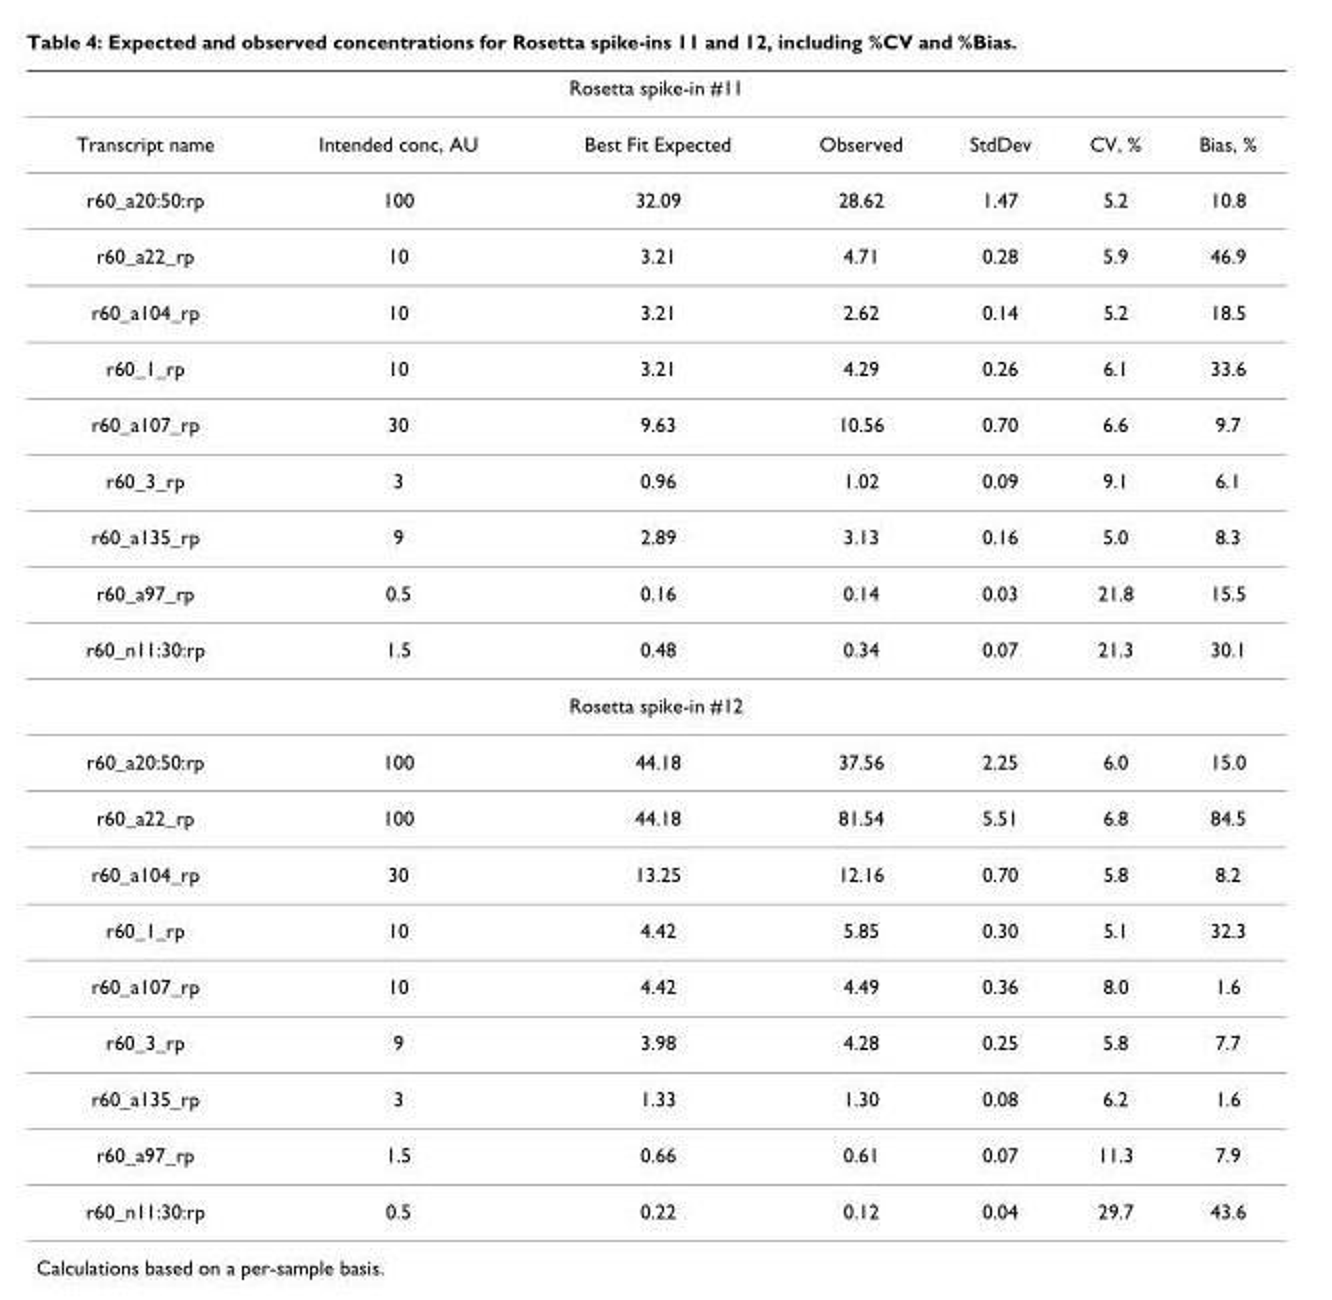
<table><thead><tr><td colspan="7">Rosetta spike-in #11</td></tr><tr><td>Transcript name</td><td>Intended conc, AU</td><td>Best Fit Expected</td><td>Observed</td><td>StdDev</td><td>CV, %</td><td>Bias, %</td></tr></thead><tbody><tr><td>r60_a20:50:rp</td><td>100</td><td>32.09</td><td>28.62</td><td>1.47</td><td>5.2</td><td>10.8</td></tr><tr><td>r60_a22_rp</td><td>10</td><td>3.21</td><td>4.71</td><td>0.28</td><td>5.9</td><td>46.9</td></tr><tr><td>r60_a104_rp</td><td>10</td><td>3.21</td><td>2.62</td><td>0.14</td><td>5.2</td><td>18.5</td></tr><tr><td>r60_1_rp</td><td>10</td><td>3.21</td><td>4.29</td><td>0.26</td><td>6.1</td><td>33.6</td></tr><tr><td>r60_a107_rp</td><td>30</td><td>9.63</td><td>10.56</td><td>0.70</td><td>6.6</td><td>9.7</td></tr><tr><td>r60_3_rp</td><td>3</td><td>0.96</td><td>1.02</td><td>0.09</td><td>9.1</td><td>6.1</td></tr><tr><td>r60_a135_rp</td><td>9</td><td>2.89</td><td>3.13</td><td>0.16</td><td>5.0</td><td>8.3</td></tr><tr><td>r60_a97_rp</td><td>0.5</td><td>0.16</td><td>0.14</td><td>0.03</td><td>21.8</td><td>15.5</td></tr><tr><td>r60_n11:30:rp</td><td>1.5</td><td>0.48</td><td>0.34</td><td>0.07</td><td>21.3</td><td>30.1</td></tr><tr><td colspan="7">Rosetta spike-in #12</td></tr><tr><td>r60_a20:50:rp</td><td>100</td><td>44.18</td><td>37.56</td><td>2.25</td><td>6.0</td><td>15.0</td></tr><tr><td>r60_a22_rp</td><td>100</td><td>44.18</td><td>81.54</td><td>5.51</td><td>6.8</td><td>84.5</td></tr><tr><td>r60_a104_rp</td><td>30</td><td>13.25</td><td>12.16</td><td>0.70</td><td>5.8</td><td>8.2</td></tr><tr><td>r60_1_rp</td><td>10</td><td>4.42</td><td>5.85</td><td>0.30</td><td>5.1</td><td>32.3</td></tr><tr><td>r60_a107_rp</td><td>10</td><td>4.42</td><td>4.49</td><td>0.36</td><td>8.0</td><td>1.6</td></tr><tr><td>r60_3_rp</td><td>9</td><td>3.98</td><td>4.28</td><td>0.25</td><td>5.8</td><td>7.7</td></tr><tr><td>r60_a135_rp</td><td>3</td><td>1.33</td><td>1.30</td><td>0.08</td><td>6.2</td><td>1.6</td></tr><tr><td>r60_a97_rp</td><td>1.5</td><td>0.66</td><td>0.61</td><td>0.07</td><td>11.3</td><td>7.9</td></tr><tr><td>r60_n11:30:rp</td><td>0.5</td><td>0.22</td><td>0.12</td><td>0.04</td><td>29.7</td><td>43.6</td></tr></tbody></table>